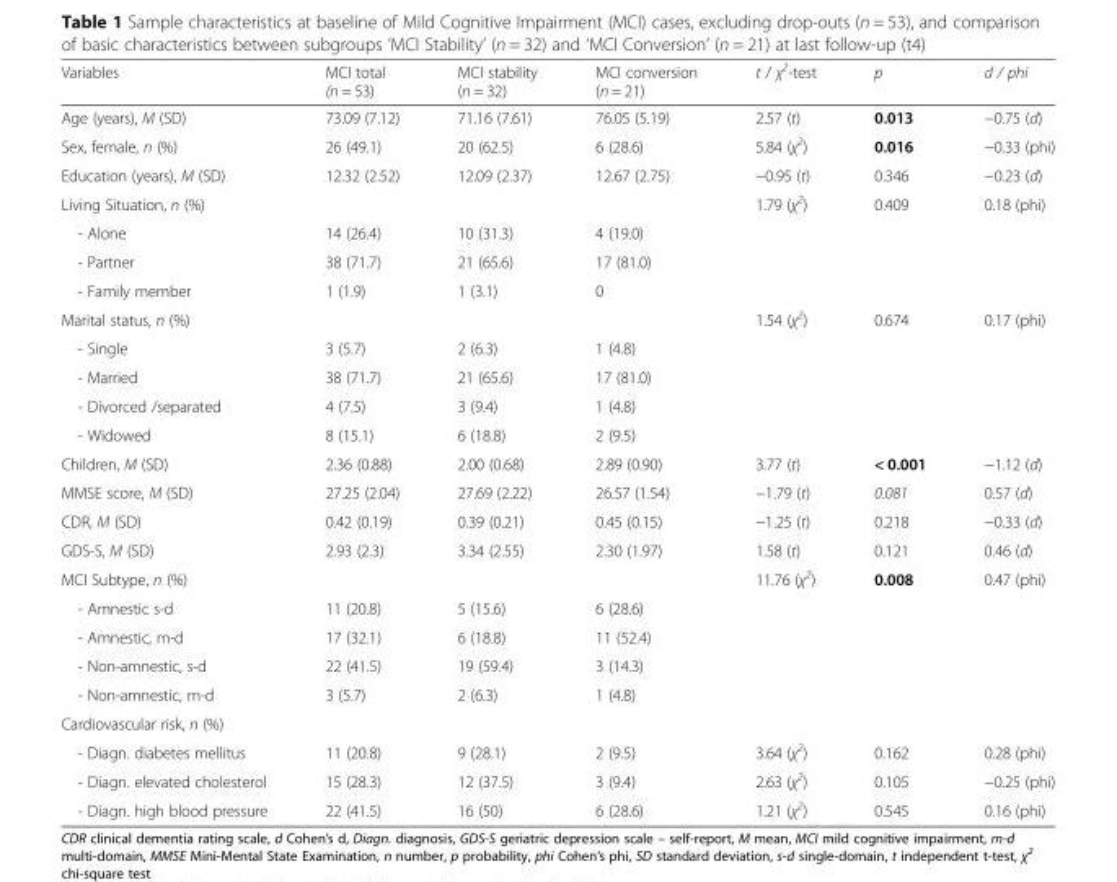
<table><thead><tr><td>Variables</td><td>MCI total (n = 53)</td><td>MCI stability (n = 32)</td><td>MCI conversion (n = 21)</td><td>t / χ<sup>2</sup>-test</td><td>p</td><td>d / phi</td></tr></thead><tbody><tr><td>Age (years), M (SD)</td><td>73.09 (7.12)</td><td>71.16 (7.61)</td><td>76.05 (5.19)</td><td>2.57 (t)</td><td>0.013</td><td>−0.75 (d)</td></tr><tr><td>Sex, female, n (%)</td><td>26 (49.1)</td><td>20 (62.5)</td><td>6 (28.6)</td><td>5.84 (χ<sup>2</sup>)</td><td>0.016</td><td>−0.33 (phi)</td></tr><tr><td>Education (years), M (SD)</td><td>12.32 (2.52)</td><td>12.09 (2.37)</td><td>12.67 (2.75)</td><td>−0.95 (t)</td><td>0.346</td><td>−0.23 (d)</td></tr><tr><td>Living Situation, n (%)</td><td></td><td></td><td></td><td>1.79 (χ<sup>2</sup>)</td><td>0.409</td><td>0.18 (phi)</td></tr><tr><td>- Alone</td><td>14 (26.4)</td><td>10 (31.3)</td><td>4 (19.0)</td><td></td><td></td><td></td></tr><tr><td>- Partner</td><td>38 (71.7)</td><td>21 (65.6)</td><td>17 (81.0)</td><td></td><td></td><td></td></tr><tr><td>- Family member</td><td>1 (1.9)</td><td>1 (3.1)</td><td>0</td><td></td><td></td><td></td></tr><tr><td>Marital status, n (%)</td><td></td><td></td><td></td><td>1.54 (χ<sup>2</sup>)</td><td>0.674</td><td>0.17 (phi)</td></tr><tr><td>- Single</td><td>3 (5.7)</td><td>2 (6.3)</td><td>1 (4.8)</td><td></td><td></td><td></td></tr><tr><td>- Married</td><td>38 (71.7)</td><td>21 (65.6)</td><td>17 (81.0)</td><td></td><td></td><td></td></tr><tr><td>- Divorced /separated</td><td>4 (7.5)</td><td>3 (9.4)</td><td>1 (4.8)</td><td></td><td></td><td></td></tr><tr><td>- Widowed</td><td>8 (15.1)</td><td>6 (18.8)</td><td>2 (9.5)</td><td></td><td></td><td></td></tr><tr><td>Children, M (SD)</td><td>2.36 (0.88)</td><td>2.00 (0.68)</td><td>2.89 (0.90)</td><td>3.77 (t)</td><td>&lt; 0.001</td><td>−1.12 (d)</td></tr><tr><td>MMSE score, M (SD)</td><td>27.25 (2.04)</td><td>27.69 (2.22)</td><td>26.57 (1.54)</td><td>−1.79 (t)</td><td>0.081</td><td>0.57 (d)</td></tr><tr><td>CDR, M (SD)</td><td>0.42 (0.19)</td><td>0.39 (0.21)</td><td>0.45 (0.15)</td><td>−1.25 (t)</td><td>0.218</td><td>−0.33 (d)</td></tr><tr><td>GDS-S, M (SD)</td><td>2.93 (2.3)</td><td>3.34 (2.55)</td><td>2.30 (1.97)</td><td>1.58 (t)</td><td>0.121</td><td>0.46 (d)</td></tr><tr><td>MCI Subtype, n (%)</td><td></td><td></td><td></td><td>11.76 (χ<sup>2</sup>)</td><td>0.008</td><td>0.47 (phi)</td></tr><tr><td>- Amnestic s-d</td><td>11 (20.8)</td><td>5 (15.6)</td><td>6 (28.6)</td><td></td><td></td><td></td></tr><tr><td>- Amnestic, m-d</td><td>17 (32.1)</td><td>6 (18.8)</td><td>11 (52.4)</td><td></td><td></td><td></td></tr><tr><td>- Non-amnestic, s-d</td><td>22 (41.5)</td><td>19 (59.4)</td><td>3 (14.3)</td><td></td><td></td><td></td></tr><tr><td>- Non-amnestic, m-d</td><td>3 (5.7)</td><td>2 (6.3)</td><td>1 (4.8)</td><td></td><td></td><td></td></tr><tr><td colspan="7">Cardiovascular risk, n (%)</td></tr><tr><td>- Diagn. diabetes mellitus</td><td>11 (20.8)</td><td>9 (28.1)</td><td>2 (9.5)</td><td>3.64 (χ<sup>2</sup>)</td><td>0.162</td><td>0.28 (phi)</td></tr><tr><td>- Diagn. elevated cholesterol</td><td>15 (28.3)</td><td>12 (37.5)</td><td>3 (9.4)</td><td>2.63 (χ<sup>2</sup>)</td><td>0.105</td><td>−0.25 (phi)</td></tr><tr><td>- Diagn. high blood pressure</td><td>22 (41.5)</td><td>16 (50)</td><td>6 (28.6)</td><td>1.21 (χ<sup>2</sup>)</td><td>0.545</td><td>0.16 (phi)</td></tr></tbody></table>